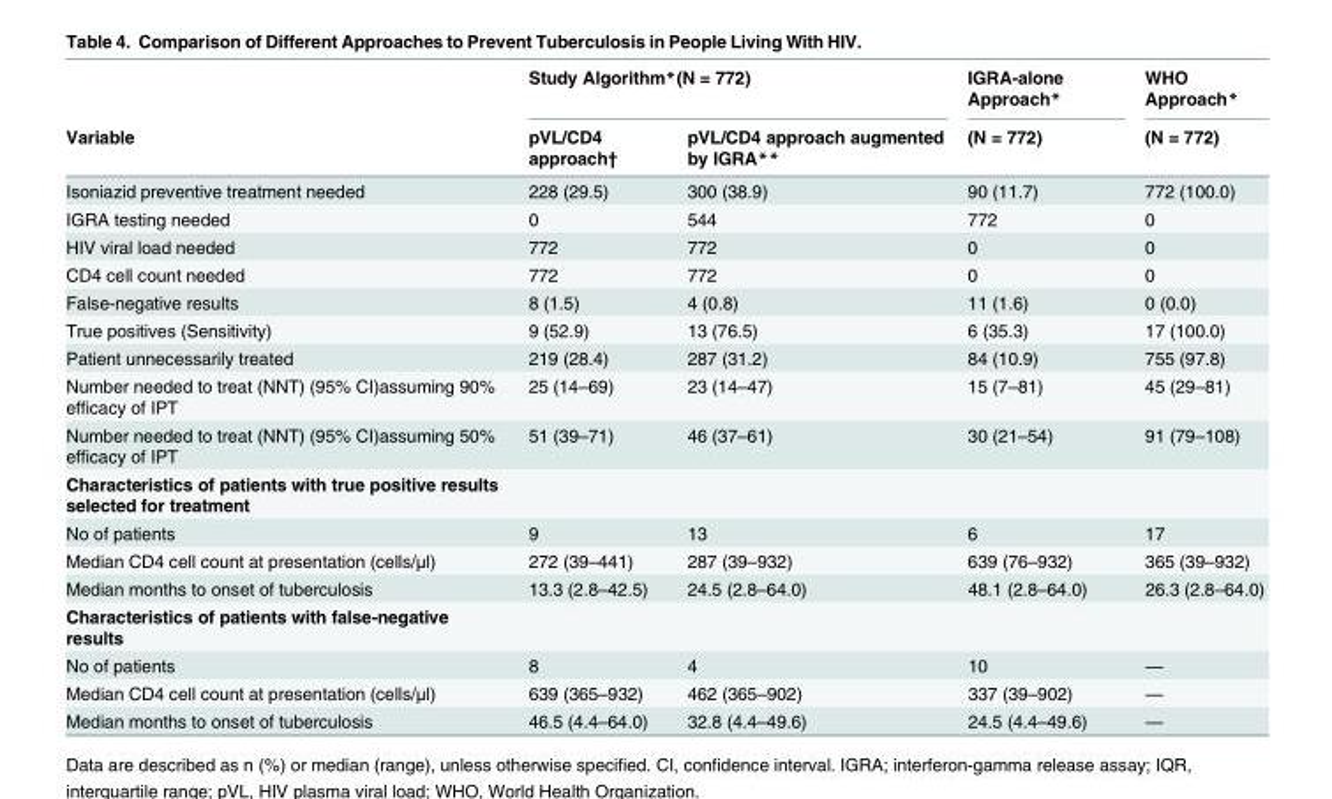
<table><thead><tr><td rowspan="2">Variable</td><td colspan="2">Study Algorithm*(N = 772)</td><td rowspan="2">IGRA-alone Approach* (N = 772)</td><td rowspan="2">WHO Approach* (N = 772)</td></tr><tr><td>pVL/CD4 approach†</td><td>pVL/CD4 approach augmented by IGRA**</td></tr></thead><tbody><tr><td>Isoniazid preventive treatment needed</td><td>228 (29.5)</td><td>300 (38.9)</td><td>90 (11.7)</td><td>772 (100.0)</td></tr><tr><td>IGRA testing needed</td><td>0</td><td>544</td><td>772</td><td>0</td></tr><tr><td>HIV viral load needed</td><td>772</td><td>772</td><td>0</td><td>0</td></tr><tr><td>CD4 cell count needed</td><td>772</td><td>772</td><td>0</td><td>0</td></tr><tr><td>False-negative results</td><td>8 (1.5)</td><td>4 (0.8)</td><td>11 (1.6)</td><td>0 (0.0)</td></tr><tr><td>True positives (Sensitivity)</td><td>9 (52.9)</td><td>13 (76.5)</td><td>6 (35.3)</td><td>17 (100.0)</td></tr><tr><td>Patient unnecessarily treated</td><td>219 (28.4)</td><td>287 (31.2)</td><td>84 (10.9)</td><td>755 (97.8)</td></tr><tr><td>Number needed to treat (NNT) (95% CI)assuming 90% efficacy of IPT</td><td>25 (14–69)</td><td>23 (14–47)</td><td>15 (7–81)</td><td>45 (29–81)</td></tr><tr><td>Number needed to treat (NNT) (95% CI)assuming 50% efficacy of IPT</td><td>51 (39–71)</td><td>46 (37–61)</td><td>30 (21–54)</td><td>91 (79–108)</td></tr><tr><td colspan="5">Characteristics of patients with true positive results selected for treatment</td></tr><tr><td>No of patients</td><td>9</td><td>13</td><td>6</td><td>17</td></tr><tr><td>Median CD4 cell count at presentation (cells/μl)</td><td>272 (39–441)</td><td>287 (39–932)</td><td>639 (76–932)</td><td>365 (39–932)</td></tr><tr><td>Median months to onset of tuberculosis</td><td>13.3 (2.8–42.5)</td><td>24.5 (2.8–64.0)</td><td>48.1 (2.8–64.0)</td><td>26.3 (2.8–64.0)</td></tr><tr><td colspan="5">Characteristics of patients with false-negative results</td></tr><tr><td>No of patients</td><td>8</td><td>4</td><td>10</td><td>—</td></tr><tr><td>Median CD4 cell count at presentation (cells/μl)</td><td>639 (365–932)</td><td>462 (365–902)</td><td>337 (39–902)</td><td>—</td></tr><tr><td>Median months to onset of tuberculosis</td><td>46.5 (4.4–64.0)</td><td>32.8 (4.4–49.6)</td><td>24.5 (4.4–49.6)</td><td>—</td></tr></tbody></table>